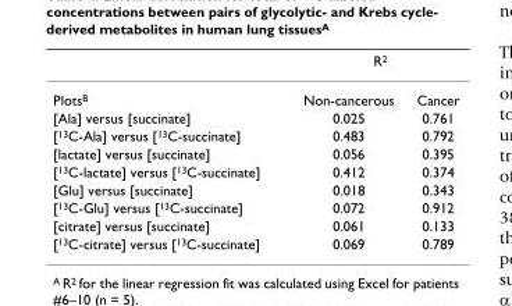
<table><thead><tr><td rowspan="2">Plots<sup>B</sup></td><td colspan="2">R<sup>2</sup></td></tr><tr><td>Non-cancerous</td><td>Cancer</td></tr></thead><tbody><tr><td>[Ala] versus [succinate]</td><td>0.025</td><td>0.761</td></tr><tr><td>[<sup>13</sup>C-Ala] versus [<sup>13</sup>C-succinate]</td><td>0.483</td><td>0.792</td></tr><tr><td>[lactate] versus [succinate]</td><td>0.056</td><td>0.395</td></tr><tr><td>[<sup>13</sup>C-lactate] versus [<sup>13</sup>C-succinate]</td><td>0.412</td><td>0.374</td></tr><tr><td>[Glu] versus [succinate]</td><td>0.018</td><td>0.343</td></tr><tr><td>[<sup>13</sup>C-Glu] versus [<sup>13</sup>C-succinate]</td><td>0.072</td><td>0.912</td></tr><tr><td>[citrate] versus [succinate]</td><td>0.061</td><td>0.133</td></tr><tr><td>[<sup>13</sup>C-citrate] versus [<sup>13</sup>C-succinate]</td><td>0.069</td><td>0.789</td></tr></tbody></table>